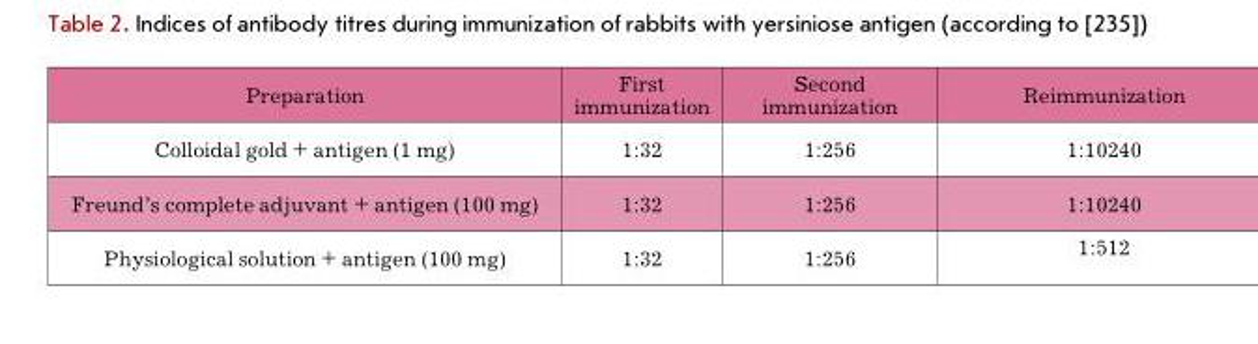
<table><thead><tr><td>Preparation</td><td>First immunization</td><td>Second immunization</td><td>Reimmunization</td></tr></thead><tbody><tr><td>Colloidal gold + antigen (1 mg)</td><td>1:32</td><td>1:256</td><td>1:10240</td></tr><tr><td>Freund’s complete adjuvant + antigen (100 mg)</td><td>1:32</td><td>1:256</td><td>1:10240</td></tr><tr><td>Physiological solution + antigen (100 mg)</td><td>1:32</td><td>1:256</td><td>1:512</td></tr></tbody></table>